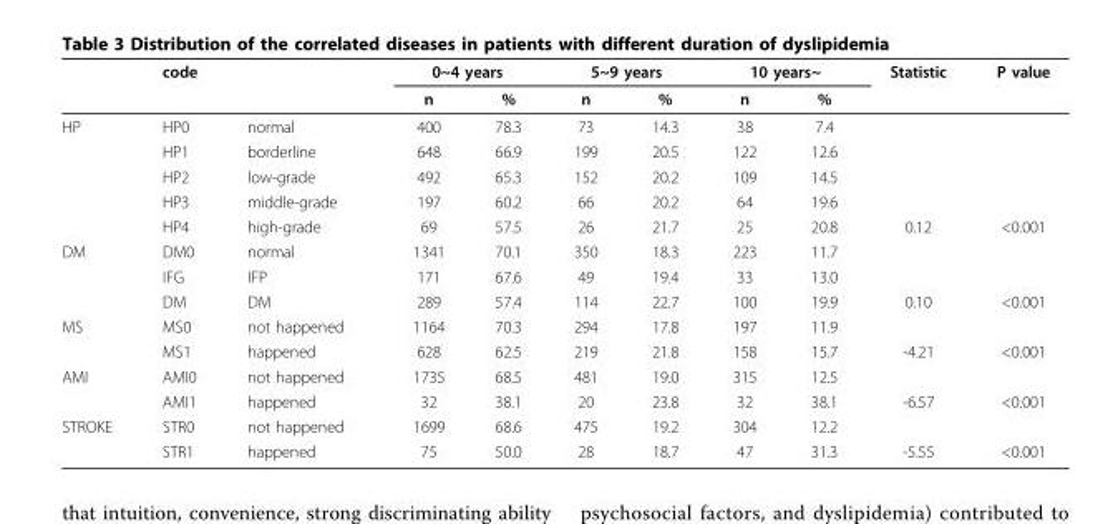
<table><thead><tr><td rowspan="2"></td><td rowspan="2">code</td><td rowspan="2"></td><td colspan="2">0~4 years</td><td colspan="2">5~9 years</td><td colspan="2">10 years~</td><td rowspan="2">Statistic</td><td rowspan="2">P value</td></tr><tr><td>n</td><td>%</td><td>n</td><td>%</td><td>n</td><td>%</td></tr></thead><tbody><tr><td rowspan="5">HP</td><td>HP0</td><td>normal</td><td>400</td><td>78.3</td><td>73</td><td>14.3</td><td>38</td><td>7.4</td><td></td><td></td></tr><tr><td>HP1</td><td>borderline</td><td>648</td><td>66.9</td><td>199</td><td>20.5</td><td>122</td><td>12.6</td><td></td><td></td></tr><tr><td>HP2</td><td>low-grade</td><td>492</td><td>65.3</td><td>152</td><td>20.2</td><td>109</td><td>14.5</td><td></td><td></td></tr><tr><td>HP3</td><td>middle-grade</td><td>197</td><td>60.2</td><td>66</td><td>20.2</td><td>64</td><td>19.6</td><td></td><td></td></tr><tr><td>HP4</td><td>high-grade</td><td>69</td><td>57.5</td><td>26</td><td>21.7</td><td>25</td><td>20.8</td><td>0.12</td><td>&lt;0.001</td></tr><tr><td rowspan="3">DM</td><td>DM0</td><td>normal</td><td>1341</td><td>70.1</td><td>350</td><td>18.3</td><td>223</td><td>11.7</td><td></td><td></td></tr><tr><td>IFG</td><td>IFP</td><td>171</td><td>67.6</td><td>49</td><td>19.4</td><td>33</td><td>13.0</td><td></td><td></td></tr><tr><td>DM</td><td>DM</td><td>289</td><td>57.4</td><td>114</td><td>22.7</td><td>100</td><td>19.9</td><td>0.10</td><td>&lt;0.001</td></tr><tr><td rowspan="2">MS</td><td>MS0</td><td>not happened</td><td>1164</td><td>70.3</td><td>294</td><td>17.8</td><td>197</td><td>11.9</td><td></td><td></td></tr><tr><td>MS1</td><td>happened</td><td>628</td><td>62.5</td><td>219</td><td>21.8</td><td>158</td><td>15.7</td><td>-4.21</td><td>&lt;0.001</td></tr><tr><td rowspan="2">AMI</td><td>AMI0</td><td>not happened</td><td>1735</td><td>68.5</td><td>481</td><td>19.0</td><td>315</td><td>12.5</td><td></td><td></td></tr><tr><td>AMI1</td><td>happened</td><td>32</td><td>38.1</td><td>20</td><td>23.8</td><td>32</td><td>38.1</td><td>-6.57</td><td>&lt;0.001</td></tr><tr><td rowspan="2">STROKE</td><td>STR0</td><td>not happened</td><td>1699</td><td>68.6</td><td>475</td><td>19.2</td><td>304</td><td>12.2</td><td></td><td></td></tr><tr><td>STR1</td><td>happened</td><td>75</td><td>50.0</td><td>28</td><td>18.7</td><td>47</td><td>31.3</td><td>-5.55</td><td>&lt;0.001</td></tr></tbody></table>